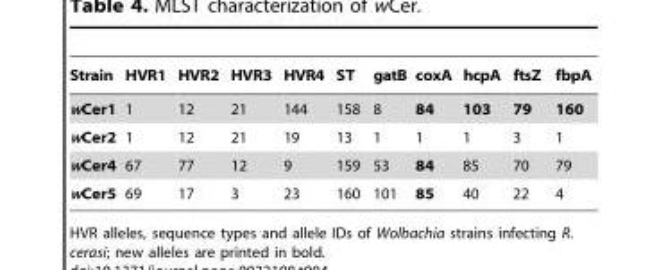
<table><thead><tr><td>Strain</td><td>HVR1</td><td>HVR2</td><td>HVR3</td><td>HVR4</td><td>ST</td><td>gatB</td><td>coxA</td><td>hcpA</td><td>ftsZ</td><td>fbpA</td></tr></thead><tbody><tr><td>wCer1</td><td>1</td><td>12</td><td>21</td><td>144</td><td>158</td><td>8</td><td>84</td><td>103</td><td>79</td><td>160</td></tr><tr><td>wCer2</td><td>1</td><td>12</td><td>21</td><td>19</td><td>13</td><td>1</td><td>1</td><td>1</td><td>3</td><td>1</td></tr><tr><td>wCer4</td><td>67</td><td>77</td><td>12</td><td>9</td><td>159</td><td>53</td><td>84</td><td>85</td><td>70</td><td>79</td></tr><tr><td>wCer5</td><td>69</td><td>17</td><td>3</td><td>23</td><td>160</td><td>101</td><td>85</td><td>40</td><td>22</td><td>4</td></tr></tbody></table>